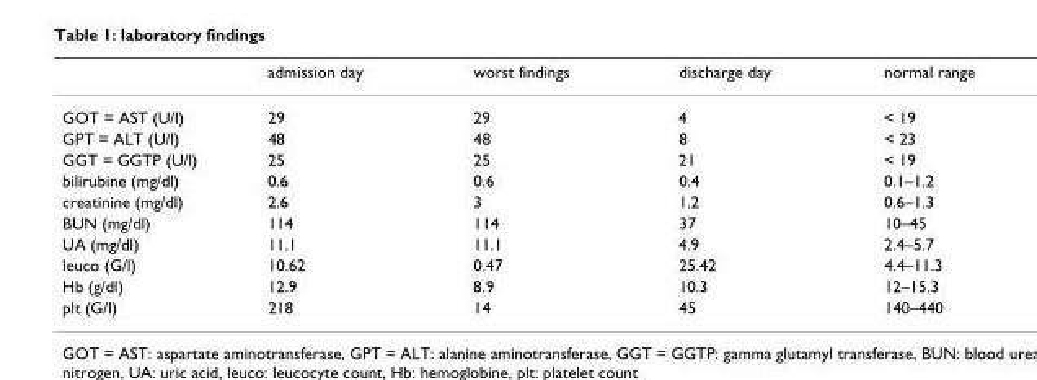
<table><thead><tr><td></td><td>admission day</td><td>worst findings</td><td>discharge day</td><td>normal range</td></tr></thead><tbody><tr><td>GOT = AST (U/l)</td><td>29</td><td>29</td><td>4</td><td>&lt; 19</td></tr><tr><td>GPT = ALT (U/l)</td><td>48</td><td>48</td><td>8</td><td>&lt; 23</td></tr><tr><td>GGT = GGTP (U/l)</td><td>25</td><td>25</td><td>21</td><td>&lt; 19</td></tr><tr><td>bilirubine (mg/dl)</td><td>0.6</td><td>0.6</td><td>0.4</td><td>0.1–1.2</td></tr><tr><td>creatinine (mg/dl)</td><td>2.6</td><td>3</td><td>1.2</td><td>0.6–1.3</td></tr><tr><td>BUN (mg/dl)</td><td>114</td><td>114</td><td>37</td><td>10–45</td></tr><tr><td>UA (mg/dl)</td><td>11.1</td><td>11.1</td><td>4.9</td><td>2.4–5.7</td></tr><tr><td>leuco (G/l)</td><td>10.62</td><td>0.47</td><td>25.42</td><td>4.4–11.3</td></tr><tr><td>Hb (g/dl)</td><td>12.9</td><td>8.9</td><td>10.3</td><td>12–15.3</td></tr><tr><td>plt (G/l)</td><td>218</td><td>14</td><td>45</td><td>140–440</td></tr></tbody></table>